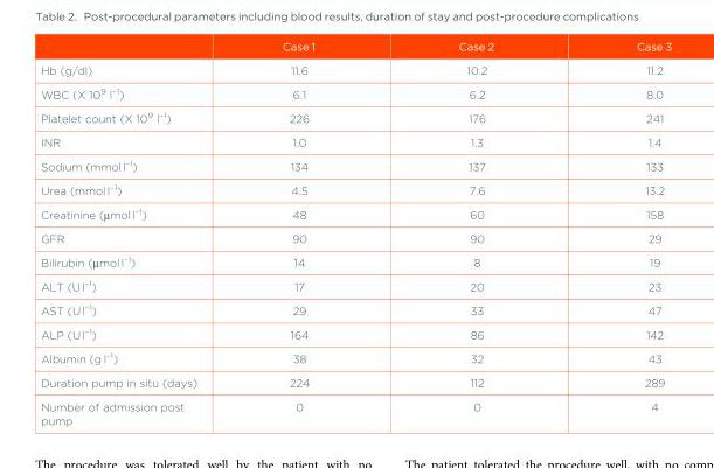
<table><thead><tr><td></td><td>Case 1</td><td>Case 2</td><td>Case 3</td></tr></thead><tbody><tr><td>Hb (g/dl)</td><td>11.6</td><td>10.2</td><td>11.2</td></tr><tr><td>WBC (X 10<sup>9</sup> l<sup>–1</sup>)</td><td>6.1</td><td>6.2</td><td>8.0</td></tr><tr><td>Platelet count (X 10<sup>9</sup> l<sup>–1</sup>)</td><td>226</td><td>176</td><td>241</td></tr><tr><td>INR</td><td>1.0</td><td>1.3</td><td>1.4</td></tr><tr><td>Sodium (mmol l<sup>–1</sup>)</td><td>134</td><td>137</td><td>133</td></tr><tr><td>Urea (mmol l<sup>–1</sup>)</td><td>4.5</td><td>7.6</td><td>13.2</td></tr><tr><td>Creatinine (μmol l<sup>–1</sup>)</td><td>48</td><td>60</td><td>158</td></tr><tr><td>GFR</td><td>90</td><td>90</td><td>29</td></tr><tr><td>Bilirubin (μmol l<sup>–1</sup>)</td><td>14</td><td>8</td><td>19</td></tr><tr><td>ALT (U l<sup>–1</sup>)</td><td>17</td><td>20</td><td>23</td></tr><tr><td>AST (U l<sup>–1</sup>)</td><td>29</td><td>33</td><td>47</td></tr><tr><td>ALP (U l<sup>–1</sup>)</td><td>164</td><td>86</td><td>142</td></tr><tr><td>Albumin (g l<sup>–1</sup>)</td><td>38</td><td>32</td><td>43</td></tr><tr><td>Duration pump in situ (days)</td><td>224</td><td>112</td><td>289</td></tr><tr><td>Number of admission post pump</td><td>0</td><td>0</td><td>4</td></tr></tbody></table>